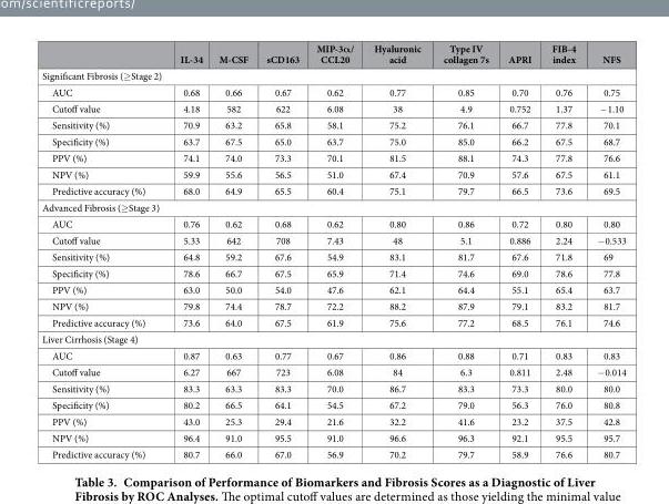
<table><thead><tr><td></td><td>IL-34</td><td>M-CSF</td><td>sCD163</td><td>MIP-3α/ CCL20</td><td>Hyaluronic acid</td><td>Type IV collagen 7s</td><td>APRI</td><td>FIB-4 index</td><td>NFS</td></tr></thead><tbody><tr><td colspan="10">Significant Fibrosis (≥Stage 2)</td></tr><tr><td>AUC</td><td>0.68</td><td>0.66</td><td>0.67</td><td>0.62</td><td>0.77</td><td>0.85</td><td>0.70</td><td>0.76</td><td>0.75</td></tr><tr><td>Cutoff value</td><td>4.18</td><td>582</td><td>622</td><td>6.08</td><td>38</td><td>4.9</td><td>0.752</td><td>1.37</td><td>− 1.10</td></tr><tr><td>Sensitivity (%)</td><td>70.9</td><td>63.2</td><td>65.8</td><td>58.1</td><td>75.2</td><td>76.1</td><td>66.7</td><td>77.8</td><td>70.1</td></tr><tr><td>Specificity (%)</td><td>63.7</td><td>67.5</td><td>65.0</td><td>63.7</td><td>75.0</td><td>85.0</td><td>66.2</td><td>67.5</td><td>68.7</td></tr><tr><td>PPV (%)</td><td>74.1</td><td>74.0</td><td>73.3</td><td>70.1</td><td>81.5</td><td>88.1</td><td>74.3</td><td>77.8</td><td>76.6</td></tr><tr><td>NPV (%)</td><td>59.9</td><td>55.6</td><td>56.5</td><td>51.0</td><td>67.4</td><td>70.9</td><td>57.6</td><td>67.5</td><td>61.1</td></tr><tr><td>Predictive accuracy (%)</td><td>68.0</td><td>64.9</td><td>65.5</td><td>60.4</td><td>75.1</td><td>79.7</td><td>66.5</td><td>73.6</td><td>69.5</td></tr><tr><td colspan="10">Advanced Fibrosis (≥ Stage 3)</td></tr><tr><td>AUC</td><td>0.76</td><td>0.62</td><td>0.68</td><td>0.62</td><td>0.80</td><td>0.86</td><td>0.72</td><td>0.80</td><td>0.80</td></tr><tr><td>Cutoff value</td><td>5.33</td><td>642</td><td>708</td><td>7.43</td><td>48</td><td>5.1</td><td>0.886</td><td>2.24</td><td>− 0.533</td></tr><tr><td>Sensitivity (%)</td><td>64.8</td><td>59.2</td><td>67.6</td><td>54.9</td><td>83.1</td><td>81.7</td><td>67.6</td><td>71.8</td><td>69</td></tr><tr><td>Specificity (%)</td><td>78.6</td><td>66.7</td><td>67.5</td><td>65.9</td><td>71.4</td><td>74.6</td><td>69.0</td><td>78.6</td><td>77.8</td></tr><tr><td>PPV (%)</td><td>63.0</td><td>50.0</td><td>54.0</td><td>47.6</td><td>62.1</td><td>64.4</td><td>55.1</td><td>65.4</td><td>63.7</td></tr><tr><td>NPV (%)</td><td>79.8</td><td>74.4</td><td>78.7</td><td>72.2</td><td>88.2</td><td>87.9</td><td>79.1</td><td>83.2</td><td>81.7</td></tr><tr><td>Predictive accuracy (%)</td><td>73.6</td><td>64.0</td><td>67.5</td><td>61.9</td><td>75.6</td><td>77.2</td><td>68.5</td><td>76.1</td><td>74.6</td></tr><tr><td colspan="10">Liver Cirrhosis (Stage 4)</td></tr><tr><td>AUC</td><td>0.87</td><td>0.63</td><td>0.77</td><td>0.67</td><td>0.86</td><td>0.88</td><td>0.71</td><td>0.83</td><td>0.83</td></tr><tr><td>Cutoff value</td><td>6.27</td><td>667</td><td>723</td><td>6.08</td><td>84</td><td>6.3</td><td>0.811</td><td>2.48</td><td>− 0.014</td></tr><tr><td>Sensitivity (%)</td><td>83.3</td><td>63.3</td><td>83.3</td><td>70.0</td><td>86.7</td><td>83.3</td><td>73.3</td><td>80.0</td><td>80.0</td></tr><tr><td>Specificity (%)</td><td>80.2</td><td>66.5</td><td>64.1</td><td>54.5</td><td>67.2</td><td>79.0</td><td>56.3</td><td>76.0</td><td>80.8</td></tr><tr><td>PPV (%)</td><td>43.0</td><td>25.3</td><td>29.4</td><td>21.6</td><td>32.2</td><td>41.6</td><td>23.2</td><td>37.5</td><td>42.8</td></tr><tr><td>NPV (%)</td><td>96.4</td><td>91.0</td><td>95.5</td><td>91.0</td><td>96.6</td><td>96.3</td><td>92.1</td><td>95.5</td><td>95.7</td></tr><tr><td>Predictive accuracy (%)</td><td>80.7</td><td>66.0</td><td>67.0</td><td>56.9</td><td>70.2</td><td>79.7</td><td>58.9</td><td>76.6</td><td>80.7</td></tr></tbody></table>